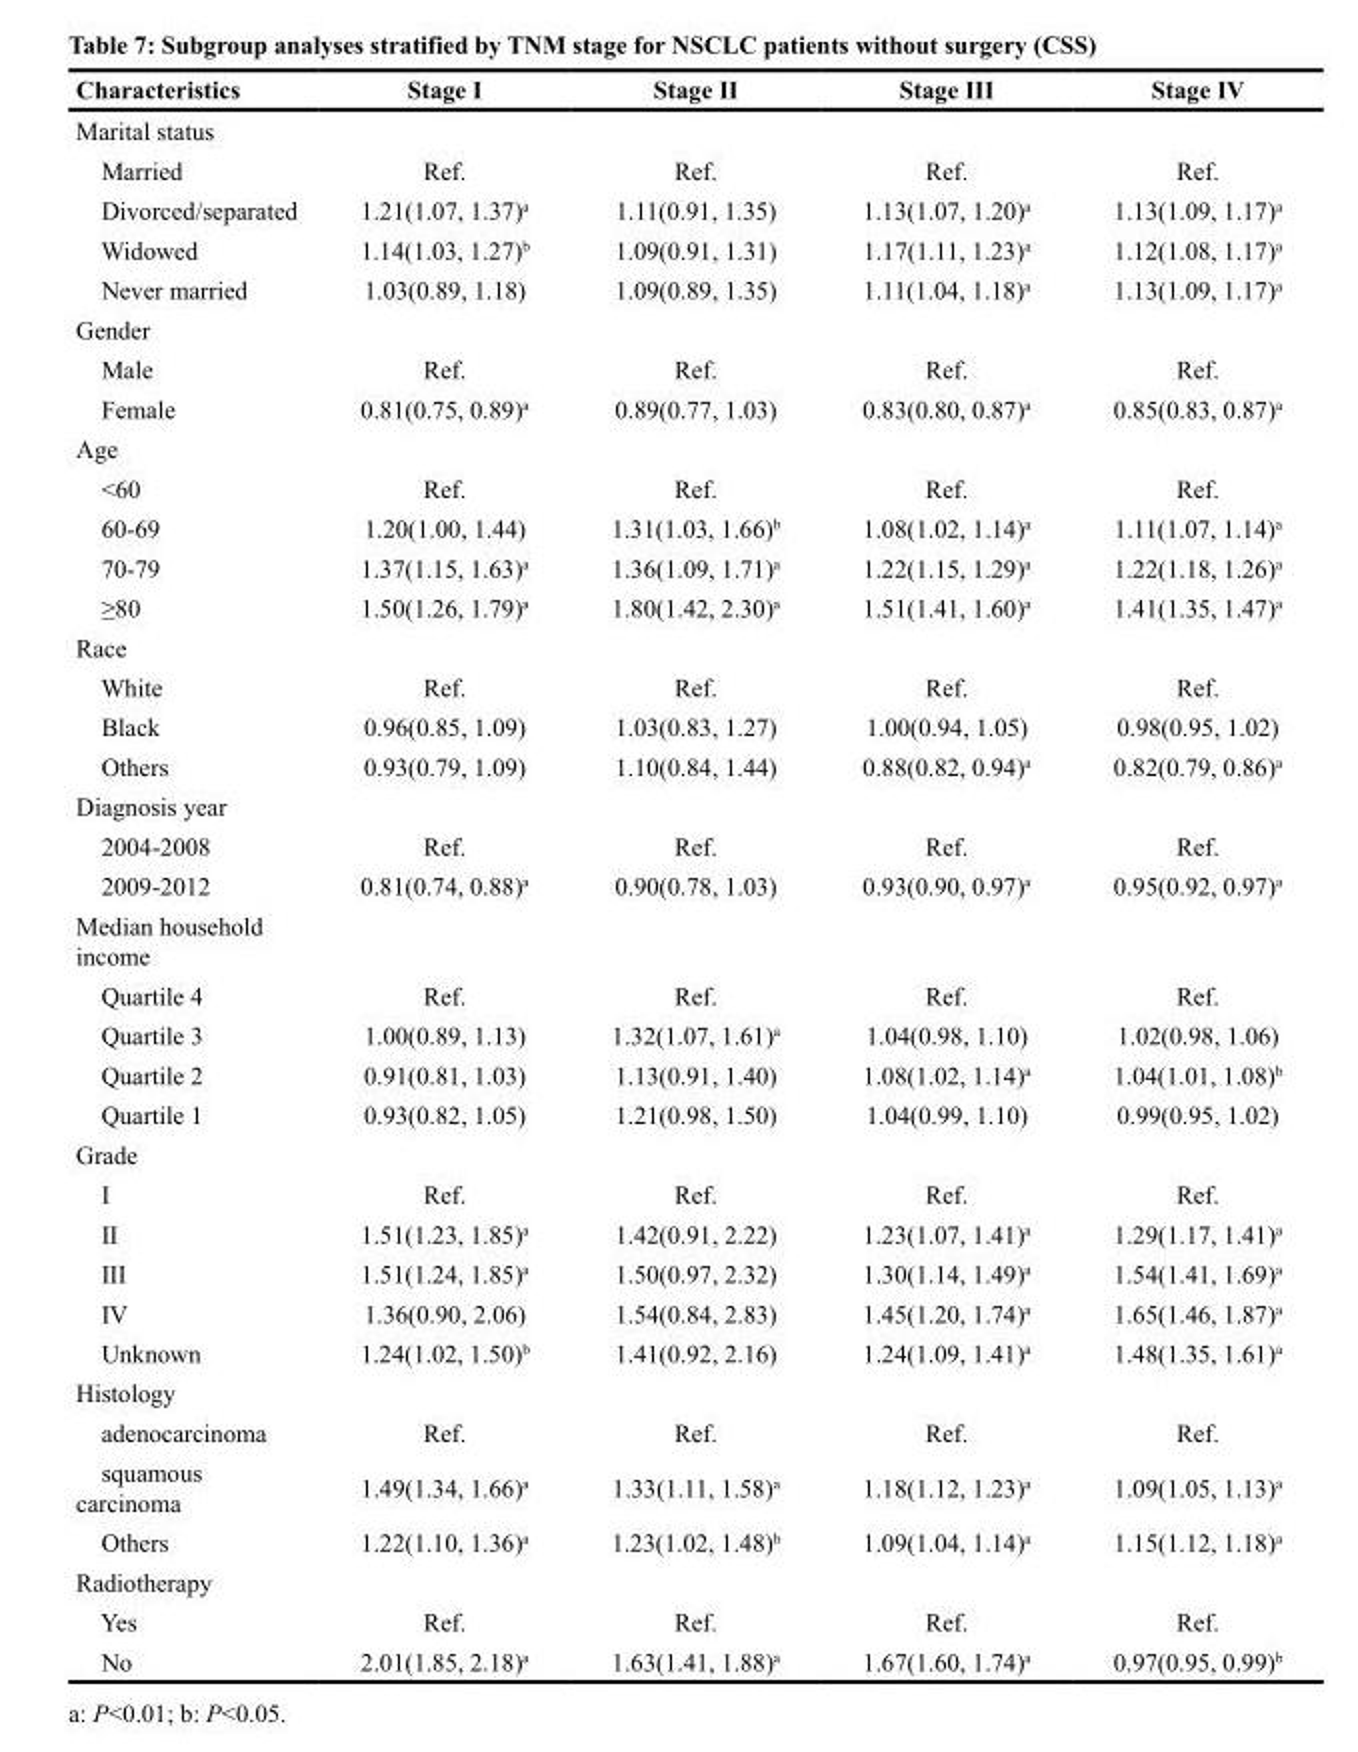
<table><thead><tr><td>Characteristics</td><td>Stage I</td><td>Stage II</td><td>Stage III</td><td>Stage IV</td></tr></thead><tbody><tr><td colspan="5">Marital status</td></tr><tr><td>Married</td><td>Ref.</td><td>Ref.</td><td>Ref.</td><td>Ref.</td></tr><tr><td>Divorced/separated</td><td>1.21(1.07, 1.37)<sup>a</sup></td><td>1.11(0.91, 1.35)</td><td>1.13(1.07, 1.20)<sup>a</sup></td><td>1.13(1.09, 1.17)<sup>a</sup></td></tr><tr><td>Widowed</td><td>1.14(1.03, 1.27)<sup>b</sup></td><td>1.09(0.91, 1.31)</td><td>1.17(1.11, 1.23)<sup>a</sup></td><td>1.12(1.08, 1.17)<sup>a</sup></td></tr><tr><td>Never married</td><td>1.03(0.89, 1.18)</td><td>1.09(0.89, 1.35)</td><td>1.11(1.04, 1.18)<sup>a</sup></td><td>1.13(1.09, 1.17)<sup>a</sup></td></tr><tr><td colspan="5">Gender</td></tr><tr><td>Male</td><td>Ref.</td><td>Ref.</td><td>Ref.</td><td>Ref.</td></tr><tr><td>Female</td><td>0.81(0.75, 0.89)<sup>a</sup></td><td>0.89(0.77, 1.03)</td><td>0.83(0.80, 0.87)<sup>a</sup></td><td>0.85(0.83, 0.87)<sup>a</sup></td></tr><tr><td colspan="5">Age</td></tr><tr><td>&lt;60</td><td>Ref.</td><td>Ref.</td><td>Ref.</td><td>Ref.</td></tr><tr><td>60-69</td><td>1.20(1.00, 1.44)</td><td>1.31(1.03, 1.66)<sup>b</sup></td><td>1.08(1.02, 1.14)<sup>a</sup></td><td>1.11(1.07, 1.14)<sup>a</sup></td></tr><tr><td>70-79</td><td>1.37(1.15, 1.63)<sup>a</sup></td><td>1.36(1.09, 1.71)<sup>a</sup></td><td>1.22(1.15, 1.29)<sup>a</sup></td><td>1.22(1.18, 1.26)<sup>a</sup></td></tr><tr><td>≥80</td><td>1.50(1.26, 1.79)<sup>a</sup></td><td>1.80(1.42, 2.30)<sup>a</sup></td><td>1.51(1.41, 1.60)<sup>a</sup></td><td>1.41(1.35, 1.47)<sup>a</sup></td></tr><tr><td colspan="5">Race</td></tr><tr><td>White</td><td>Ref.</td><td>Ref.</td><td>Ref.</td><td>Ref.</td></tr><tr><td>Black</td><td>0.96(0.85, 1.09)</td><td>1.03(0.83, 1.27)</td><td>1.00(0.94, 1.05)</td><td>0.98(0.95, 1.02)</td></tr><tr><td>Others</td><td>0.93(0.79, 1.09)</td><td>1.10(0.84, 1.44)</td><td>0.88(0.82, 0.94)<sup>a</sup></td><td>0.82(0.79, 0.86)<sup>a</sup></td></tr><tr><td colspan="5">Diagnosis year</td></tr><tr><td>2004-2008</td><td>Ref.</td><td>Ref.</td><td>Ref.</td><td>Ref.</td></tr><tr><td>2009-2012</td><td>0.81(0.74, 0.88)<sup>a</sup></td><td>0.90(0.78, 1.03)</td><td>0.93(0.90, 0.97)<sup>a</sup></td><td>0.95(0.92, 0.97)<sup>a</sup></td></tr><tr><td colspan="5">Median household income</td></tr><tr><td>Quartile 4</td><td>Ref.</td><td>Ref.</td><td>Ref.</td><td>Ref.</td></tr><tr><td>Quartile 3</td><td>1.00(0.89, 1.13)</td><td>1.32(1.07, 1.61)<sup>a</sup></td><td>1.04(0.98, 1.10)</td><td>1.02(0.98, 1.06)</td></tr><tr><td>Quartile 2</td><td>0.91(0.81, 1.03)</td><td>1.13(0.91, 1.40)</td><td>1.08(1.02, 1.14)<sup>a</sup></td><td>1.04(1.01, 1.08)<sup>b</sup></td></tr><tr><td>Quartile 1</td><td>0.93(0.82, 1.05)</td><td>1.21(0.98, 1.50)</td><td>1.04(0.99, 1.10)</td><td>0.99(0.95, 1.02)</td></tr><tr><td colspan="5">Grade</td></tr><tr><td>I</td><td>Ref.</td><td>Ref.</td><td>Ref.</td><td>Ref.</td></tr><tr><td>II</td><td>1.51(1.23, 1.85)<sup>a</sup></td><td>1.42(0.91, 2.22)</td><td>1.23(1.07, 1.41)<sup>a</sup></td><td>1.29(1.17, 1.41)<sup>a</sup></td></tr><tr><td>III</td><td>1.51(1.24, 1.85)<sup>a</sup></td><td>1.50(0.97, 2.32)</td><td>1.30(1.14, 1.49)<sup>a</sup></td><td>1.54(1.41, 1.69)<sup>a</sup></td></tr><tr><td>IV</td><td>1.36(0.90, 2.06)</td><td>1.54(0.84, 2.83)</td><td>1.45(1.20, 1.74)<sup>a</sup></td><td>1.65(1.46, 1.87)<sup>a</sup></td></tr><tr><td>Unknown</td><td>1.24(1.02, 1.50)<sup>b</sup></td><td>1.41(0.92, 2.16)</td><td>1.24(1.09, 1.41)<sup>a</sup></td><td>1.48(1.35, 1.61)<sup>a</sup></td></tr><tr><td colspan="5">Histology</td></tr><tr><td>adenocarcinoma</td><td>Ref.</td><td>Ref.</td><td>Ref.</td><td>Ref.</td></tr><tr><td>squamous carcinoma</td><td>1.49(1.34, 1.66)<sup>a</sup></td><td>1.33(1.11, 1.58)<sup>a</sup></td><td>1.18(1.12, 1.23)<sup>a</sup></td><td>1.09(1.05, 1.13)<sup>a</sup></td></tr><tr><td>Others</td><td>1.22(1.10, 1.36)<sup>a</sup></td><td>1.23(1.02, 1.48)<sup>b</sup></td><td>1.09(1.04, 1.14)<sup>a</sup></td><td>1.15(1.12, 1.18)<sup>a</sup></td></tr><tr><td colspan="5">Radiotherapy</td></tr><tr><td>Yes</td><td>Ref.</td><td>Ref.</td><td>Ref.</td><td>Ref.</td></tr><tr><td>No</td><td>2.01(1.85, 2.18)<sup>a</sup></td><td>1.63(1.41, 1.88)<sup>a</sup></td><td>1.67(1.60, 1.74)<sup>a</sup></td><td>0.97(0.95, 0.99)<sup>b</sup></td></tr></tbody></table>